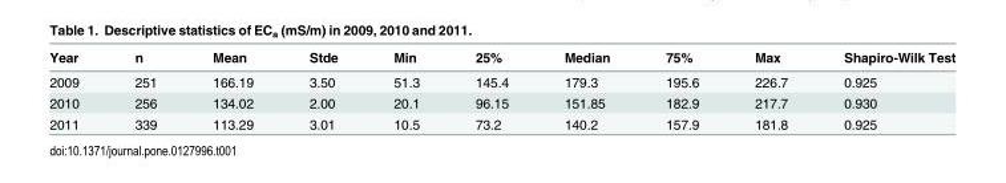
<table><thead><tr><td>Year</td><td>n</td><td>Mean</td><td>Stde</td><td>Min</td><td>25%</td><td>Median</td><td>75%</td><td>Max</td><td>Shapiro-Wilk Test</td></tr></thead><tbody><tr><td>2009</td><td>251</td><td>166.19</td><td>3.50</td><td>51.3</td><td>145.4</td><td>179.3</td><td>195.6</td><td>226.7</td><td>0.925</td></tr><tr><td>2010</td><td>256</td><td>134.02</td><td>2.00</td><td>20.1</td><td>96.15</td><td>151.85</td><td>182.9</td><td>217.7</td><td>0.930</td></tr><tr><td>2011</td><td>339</td><td>113.29</td><td>3.01</td><td>10.5</td><td>73.2</td><td>140.2</td><td>157.9</td><td>181.8</td><td>0.925</td></tr></tbody></table>